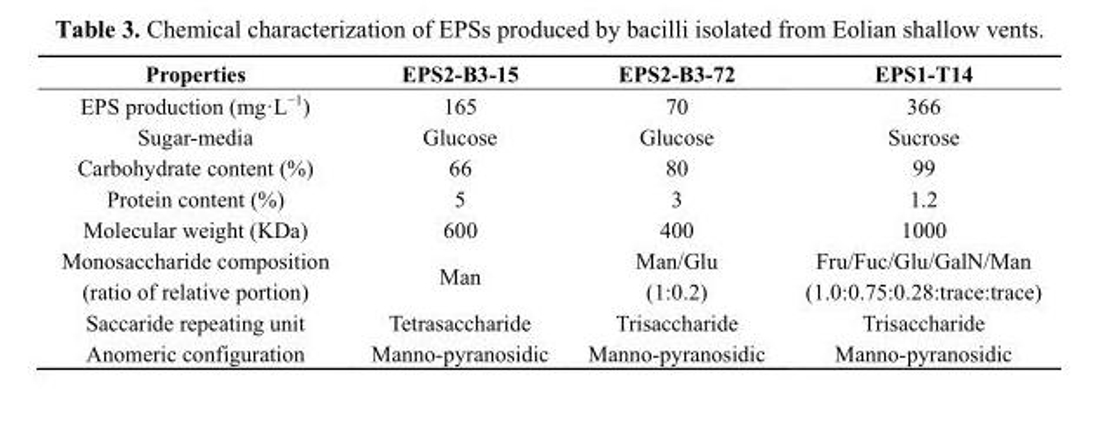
<table><thead><tr><td>Properties</td><td>EPS2-B3-15</td><td>EPS2-B3-72</td><td>EPS1-T14</td></tr></thead><tbody><tr><td>EPS production (mg·L<sup>−1</sup>)</td><td>165</td><td>70</td><td>366</td></tr><tr><td>Sugar-media</td><td>Glucose</td><td>Glucose</td><td>Sucrose</td></tr><tr><td>Carbohydrate content (%)</td><td>66</td><td>80</td><td>99</td></tr><tr><td>Protein content (%)</td><td>5</td><td>3</td><td>1.2</td></tr><tr><td>Molecular weight (KDa)</td><td>600</td><td>400</td><td>1000</td></tr><tr><td>Monosaccharide composition (ratio of relative portion)</td><td>Man</td><td>Man/Glu (1:0.2)</td><td>Fru/Fuc/Glu/GalN/Man (1.0:0.75:0.28:trace:trace)</td></tr><tr><td>Saccaride repeating unit</td><td>Tetrasaccharide</td><td>Trisaccharide</td><td>Trisaccharide</td></tr><tr><td>Anomeric configuration</td><td>Manno-pyranosidic</td><td>Manno-pyranosidic</td><td>Manno-pyranosidic</td></tr></tbody></table>